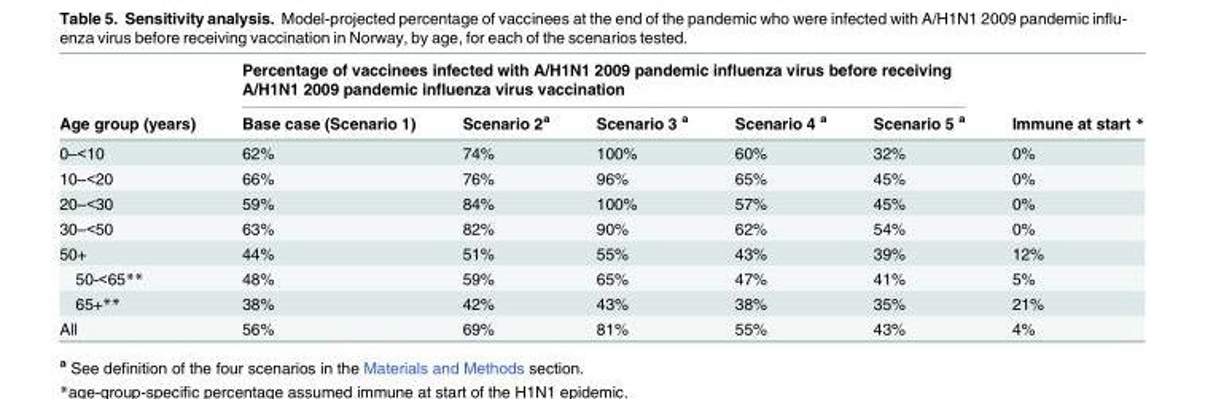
<table><thead><tr><td rowspan="2">Age group (years)</td><td colspan="5">Percentage of vaccinees infected with A/H1N1 2009 pandemic influenza virus before receiving A/H1N1 2009 pandemic influenza virus vaccination</td><td rowspan="2">Immune at start *</td></tr><tr><td>Base case (Scenario 1)</td><td>Scenario 2<sup>a</sup></td><td>Scenario 3 <sup>a</sup></td><td>Scenario 4 <sup>a</sup></td><td>Scenario 5 <sup>a</sup></td></tr></thead><tbody><tr><td>0–&lt;10</td><td>62%</td><td>74%</td><td>100%</td><td>60%</td><td>32%</td><td>0%</td></tr><tr><td>10–&lt;20</td><td>66%</td><td>76%</td><td>96%</td><td>65%</td><td>45%</td><td>0%</td></tr><tr><td>20–&lt;30</td><td>59%</td><td>84%</td><td>100%</td><td>57%</td><td>45%</td><td>0%</td></tr><tr><td>30–&lt;50</td><td>63%</td><td>82%</td><td>90%</td><td>62%</td><td>54%</td><td>0%</td></tr><tr><td>50+</td><td>44%</td><td>51%</td><td>55%</td><td>43%</td><td>39%</td><td>12%</td></tr><tr><td>50-&lt;65**</td><td>48%</td><td>59%</td><td>65%</td><td>47%</td><td>41%</td><td>5%</td></tr><tr><td>65+**</td><td>38%</td><td>42%</td><td>43%</td><td>38%</td><td>35%</td><td>21%</td></tr><tr><td>All</td><td>56%</td><td>69%</td><td>81%</td><td>55%</td><td>43%</td><td>4%</td></tr></tbody></table>